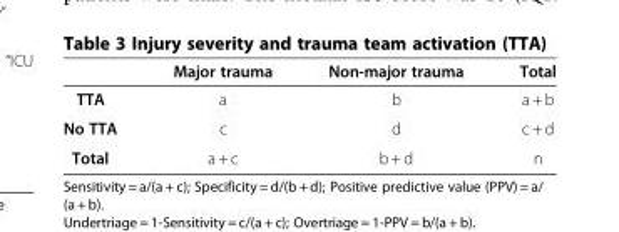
<table><thead><tr><td></td><td>Major trauma</td><td>Non-major trauma</td><td>Total</td></tr></thead><tbody><tr><td>TTA</td><td>a</td><td>b</td><td>a + b</td></tr><tr><td>No TTA</td><td>c</td><td>d</td><td>c + d</td></tr><tr><td>Total</td><td>a + c</td><td>b + d</td><td>n</td></tr></tbody></table>